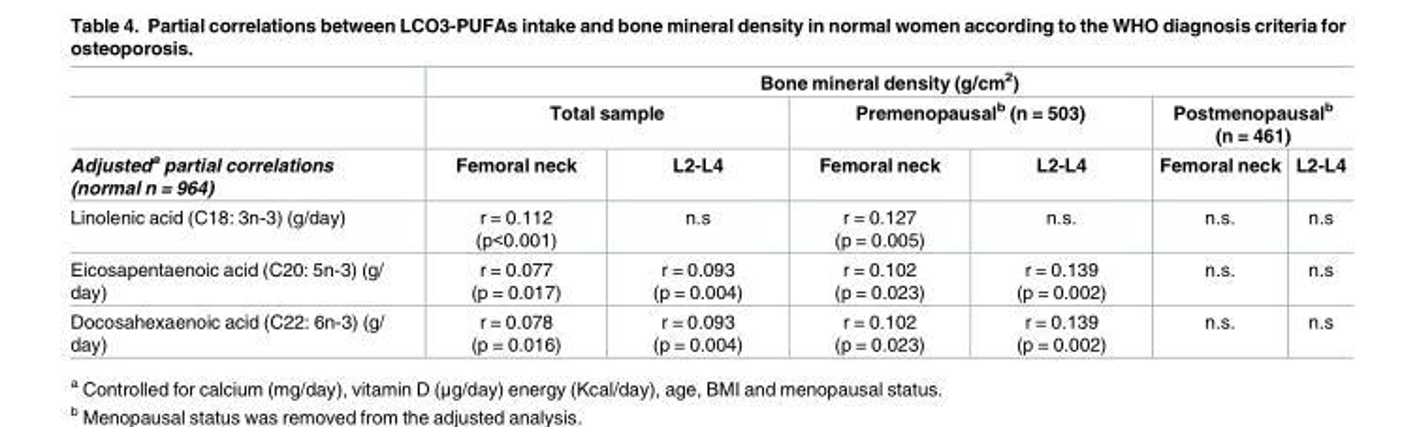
<table><thead><tr><td rowspan="3">Adjusted<sup>a</sup> partial correlations (normal n = 964)</td><td colspan="6">Bone mineral density (g/cm<sup>2</sup>)</td></tr><tr><td colspan="2">Total sample</td><td colspan="2">Premenopausal<sup>b</sup> (n = 503)</td><td colspan="2">Postmenopausal<sup>b</sup> (n = 461)</td></tr><tr><td>Femoral neck</td><td>L2-L4</td><td>Femoral neck</td><td>L2-L4</td><td>Femoral neck</td><td>L2-L4</td></tr></thead><tbody><tr><td>Linolenic acid (C18: 3n-3) (g/day)</td><td>r = 0.112 (p&lt;0.001)</td><td>n.s</td><td>r = 0.127 (p = 0.005)</td><td>n.s.</td><td>n.s.</td><td>n.s</td></tr><tr><td>Eicosapentaenoic acid (C20: 5n-3) (g/ day)</td><td>r = 0.077 (p = 0.017)</td><td>r = 0.093 (p = 0.004)</td><td>r = 0.102 (p = 0.023)</td><td>r = 0.139 (p = 0.002)</td><td>n.s.</td><td>n.s</td></tr><tr><td>Docosahexaenoic acid (C22: 6n-3) (g/ day)</td><td>r = 0.078 (p = 0.016)</td><td>r = 0.093 (p = 0.004)</td><td>r = 0.102 (p = 0.023)</td><td>r = 0.139 (p = 0.002)</td><td>n.s.</td><td>n.s</td></tr></tbody></table>